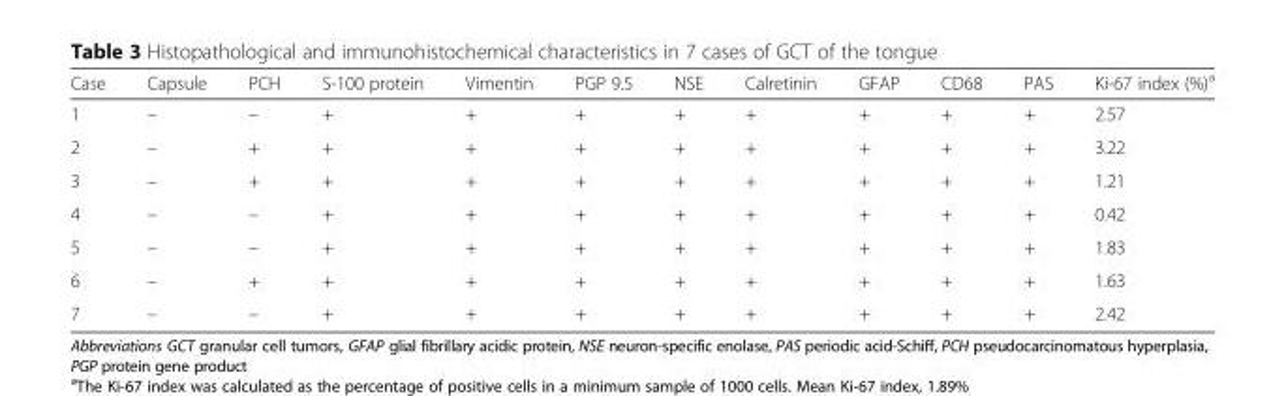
<table><thead><tr><td>Case</td><td>Capsule</td><td>PCH</td><td>S-100 protein</td><td>Vimentin</td><td>PGP 9.5</td><td>NSE</td><td>Calretinin</td><td>GFAP</td><td>CD68</td><td>PAS</td><td>Ki-67 index (%)<sup>a</sup></td></tr></thead><tbody><tr><td>1</td><td>–</td><td>–</td><td>+</td><td>+</td><td>+</td><td>+</td><td>+</td><td>+</td><td>+</td><td>+</td><td>2.57</td></tr><tr><td>2</td><td>–</td><td>+</td><td>+</td><td>+</td><td>+</td><td>+</td><td>+</td><td>+</td><td>+</td><td>+</td><td>3.22</td></tr><tr><td>3</td><td>–</td><td>+</td><td>+</td><td>+</td><td>+</td><td>+</td><td>+</td><td>+</td><td>+</td><td>+</td><td>1.21</td></tr><tr><td>4</td><td>–</td><td>–</td><td>+</td><td>+</td><td>+</td><td>+</td><td>+</td><td>+</td><td>+</td><td>+</td><td>0.42</td></tr><tr><td>5</td><td>–</td><td>–</td><td>+</td><td>+</td><td>+</td><td>+</td><td>+</td><td>+</td><td>+</td><td>+</td><td>1.83</td></tr><tr><td>6</td><td>–</td><td>+</td><td>+</td><td>+</td><td>+</td><td>+</td><td>+</td><td>+</td><td>+</td><td>+</td><td>1.63</td></tr><tr><td>7</td><td>–</td><td>–</td><td>+</td><td>+</td><td>+</td><td>+</td><td>+</td><td>+</td><td>+</td><td>+</td><td>2.42</td></tr></tbody></table>